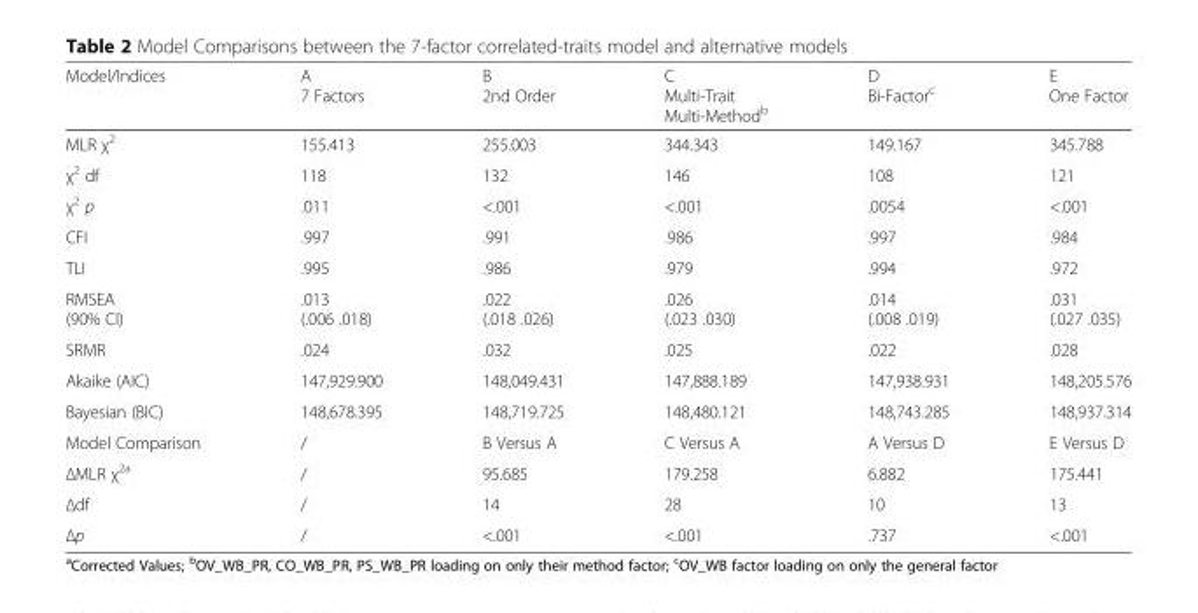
<table><thead><tr><td>Model/Indices</td><td>A 7 Factors</td><td>B 2nd Order</td><td>C Multi-Trait Multi-Method<sup>b</sup></td><td>D Bi-Factor<sup>c</sup></td><td>E One Factor</td></tr></thead><tbody><tr><td>MLR χ<sup>2</sup></td><td>155.413</td><td>255.003</td><td>344.343</td><td>149.167</td><td>345.788</td></tr><tr><td>χ<sup>2</sup> df</td><td>118</td><td>132</td><td>146</td><td>108</td><td>121</td></tr><tr><td>χ<sup>2</sup> p</td><td>.011</td><td>&lt;.001</td><td>&lt;.001</td><td>.0054</td><td>&lt;.001</td></tr><tr><td>CFI</td><td>.997</td><td>.991</td><td>.986</td><td>.997</td><td>.984</td></tr><tr><td>TLI</td><td>.995</td><td>.986</td><td>.979</td><td>.994</td><td>.972</td></tr><tr><td>RMSEA (90% CI)</td><td>.013 (.006 .018)</td><td>.022 (.018 .026)</td><td>.026 (.023 .030)</td><td>.014 (.008 .019)</td><td>.031 (.027 .035)</td></tr><tr><td>SRMR</td><td>.024</td><td>.032</td><td>.025</td><td>.022</td><td>.028</td></tr><tr><td>Akaike (AIC)</td><td>147,929.900</td><td>148,049.431</td><td>147,888.189</td><td>147,938.931</td><td>148,205.576</td></tr><tr><td>Bayesian (BIC)</td><td>148,678.395</td><td>148,719.725</td><td>148,480.121</td><td>148,743.285</td><td>148,937.314</td></tr><tr><td>Model Comparison</td><td>/</td><td>B Versus A</td><td>C Versus A</td><td>A Versus D</td><td>E Versus D</td></tr><tr><td>ΔMLR χ2a</td><td>/</td><td>95.685</td><td>179.258</td><td>6.882</td><td>175.441</td></tr><tr><td>Δdf</td><td>/</td><td>14</td><td>28</td><td>10</td><td>13</td></tr><tr><td>Δp</td><td>/</td><td>&lt;.001</td><td>&lt;.001</td><td>.737</td><td>&lt;.001</td></tr></tbody></table>